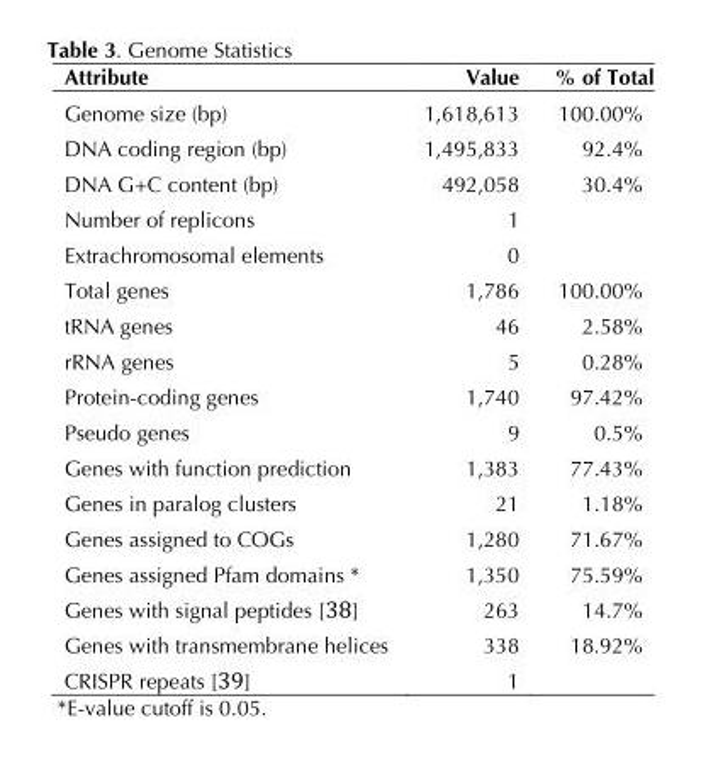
<table><thead><tr><td>Attribute</td><td>Value</td><td>% of Total</td></tr></thead><tbody><tr><td>Genome size (bp)</td><td>1,618,613</td><td>100.00%</td></tr><tr><td>DNA coding region (bp)</td><td>1,495,833</td><td>92.4%</td></tr><tr><td>DNA G+C content (bp)</td><td>492,058</td><td>30.4%</td></tr><tr><td>Number of replicons</td><td>1</td><td></td></tr><tr><td>Extrachromosomal elements</td><td>0</td><td></td></tr><tr><td>Total genes</td><td>1,786</td><td>100.00%</td></tr><tr><td>tRNA genes</td><td>46</td><td>2.58%</td></tr><tr><td>rRNA genes</td><td>5</td><td>0.28%</td></tr><tr><td>Protein-coding genes</td><td>1,740</td><td>97.42%</td></tr><tr><td>Pseudo genes</td><td>9</td><td>0.5%</td></tr><tr><td>Genes with function prediction</td><td>1,383</td><td>77.43%</td></tr><tr><td>Genes in paralog clusters</td><td>21</td><td>1.18%</td></tr><tr><td>Genes assigned to COGs</td><td>1,280</td><td>71.67%</td></tr><tr><td>Genes assigned Pfam domains *</td><td>1,350</td><td>75.59%</td></tr><tr><td>Genes with signal peptides [38]</td><td>263</td><td>14.7%</td></tr><tr><td>Genes with transmembrane helices</td><td>338</td><td>18.92%</td></tr><tr><td>CRISPR repeats [39]</td><td>1</td><td></td></tr></tbody></table>